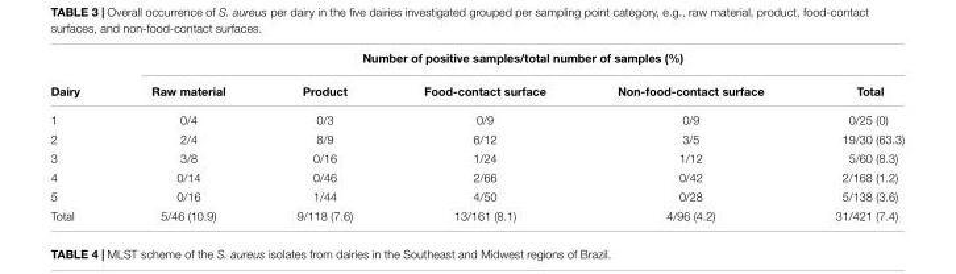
<table><thead><tr><td rowspan="2">Dairy</td><td colspan="5">Number of positive samples/total number of samples (%)</td></tr><tr><td>Raw material</td><td>Product</td><td>Food-contact surface</td><td>Non-food-contact surface</td><td>Total</td></tr></thead><tbody><tr><td>1</td><td>0/4</td><td>0/3</td><td>0/9</td><td>0/9</td><td>0/25 (0)</td></tr><tr><td>2</td><td>2/4</td><td>8/9</td><td>6/12</td><td>3/5</td><td>19/30 (63.3)</td></tr><tr><td>3</td><td>3/8</td><td>0/16</td><td>1/24</td><td>1/12</td><td>5/60 (8.3)</td></tr><tr><td>4</td><td>0/14</td><td>0/46</td><td>2/66</td><td>0/42</td><td>2/168 (1.2)</td></tr><tr><td>5</td><td>0/16</td><td>1/44</td><td>4/50</td><td>0/28</td><td>5/138 (3.6)</td></tr><tr><td>Total</td><td>5/46 (10.9)</td><td>9/118 (7.6)</td><td>13/161 (8.1)</td><td>4/96 (4.2)</td><td>31/421 (7.4)</td></tr></tbody></table>